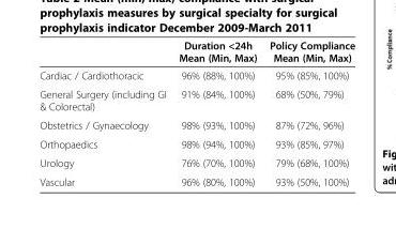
<table><thead><tr><td></td><td>Duration &lt;24h Mean (Min, Max)</td><td>Policy Compliance Mean (Min, Max)</td></tr></thead><tbody><tr><td>Cardiac / Cardiothoracic</td><td>96% (88%, 100%)</td><td>95% (85%, 100%)</td></tr><tr><td>General Surgery (including GI &amp; Colorectal)</td><td>91% (84%, 100%)</td><td>68% (50%, 79%)</td></tr><tr><td>Obstetrics / Gynaecology</td><td>98% (93%, 100%)</td><td>87% (72%, 96%)</td></tr><tr><td>Orthopaedics</td><td>98% (94%, 100%)</td><td>93% (85%, 97%)</td></tr><tr><td>Urology</td><td>76% (70%, 100%)</td><td>79% (68%, 100%)</td></tr><tr><td>Vascular</td><td>96% (80%, 100%)</td><td>93% (50%, 100%)</td></tr></tbody></table>